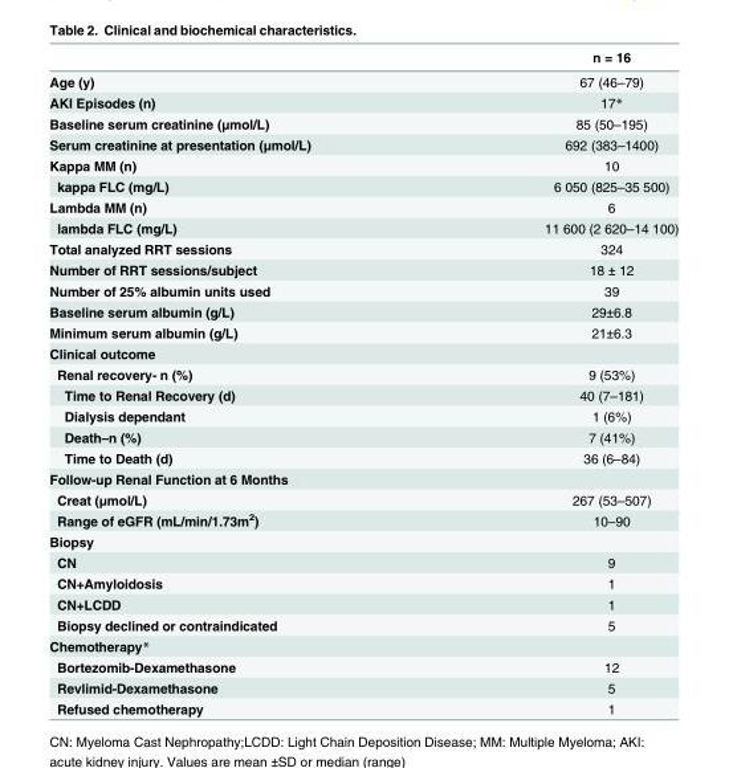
<table><thead><tr><td></td><td>n = 16</td></tr></thead><tbody><tr><td>Age (y)</td><td>67 (46–79)</td></tr><tr><td>AKI Episodes (n)</td><td>17*</td></tr><tr><td>Baseline serum creatinine (μmol/L)</td><td>85 (50–195)</td></tr><tr><td>Serum creatinine at presentation (μmol/L)</td><td>692 (383–1400)</td></tr><tr><td>Kappa MM (n)</td><td>10</td></tr><tr><td>kappa FLC (mg/L)</td><td>6 050 (825–35 500)</td></tr><tr><td>Lambda MM (n)</td><td>6</td></tr><tr><td>lambda FLC (mg/L)</td><td>11 600 (2 620–14 100)</td></tr><tr><td>Total analyzed RRT sessions</td><td>324</td></tr><tr><td>Number of RRT sessions/subject</td><td>18 ± 12</td></tr><tr><td>Number of 25% albumin units used</td><td>39</td></tr><tr><td>Baseline serum albumin (g/L)</td><td>29±6.8</td></tr><tr><td>Minimum serum albumin (g/L)</td><td>21±6.3</td></tr><tr><td colspan="2">Clinical outcome</td></tr><tr><td>Renal recovery- n (%)</td><td>9 (53%)</td></tr><tr><td>Time to Renal Recovery (d)</td><td>40 (7–181)</td></tr><tr><td>Dialysis dependant</td><td>1 (6%)</td></tr><tr><td>Death–n (%)</td><td>7 (41%)</td></tr><tr><td>Time to Death (d)</td><td>36 (6–84)</td></tr><tr><td colspan="2">Follow-up Renal Function at 6 Months</td></tr><tr><td>Creat (μmol/L)</td><td>267 (53–507)</td></tr><tr><td>Range of eGFR (mL/min/1.73m<sup>2</sup>)</td><td>10–90</td></tr><tr><td colspan="2">Biopsy</td></tr><tr><td>CN</td><td>9</td></tr><tr><td>CN+Amyloidosis</td><td>1</td></tr><tr><td>CN+LCDD</td><td>1</td></tr><tr><td>Biopsy declined or contraindicated</td><td>5</td></tr><tr><td colspan="2">Chemotherapy*</td></tr><tr><td>Bortezomib-Dexamethasone</td><td>12</td></tr><tr><td>Revlimid-Dexamethasone</td><td>5</td></tr><tr><td>Refused chemotherapy</td><td>1</td></tr></tbody></table>